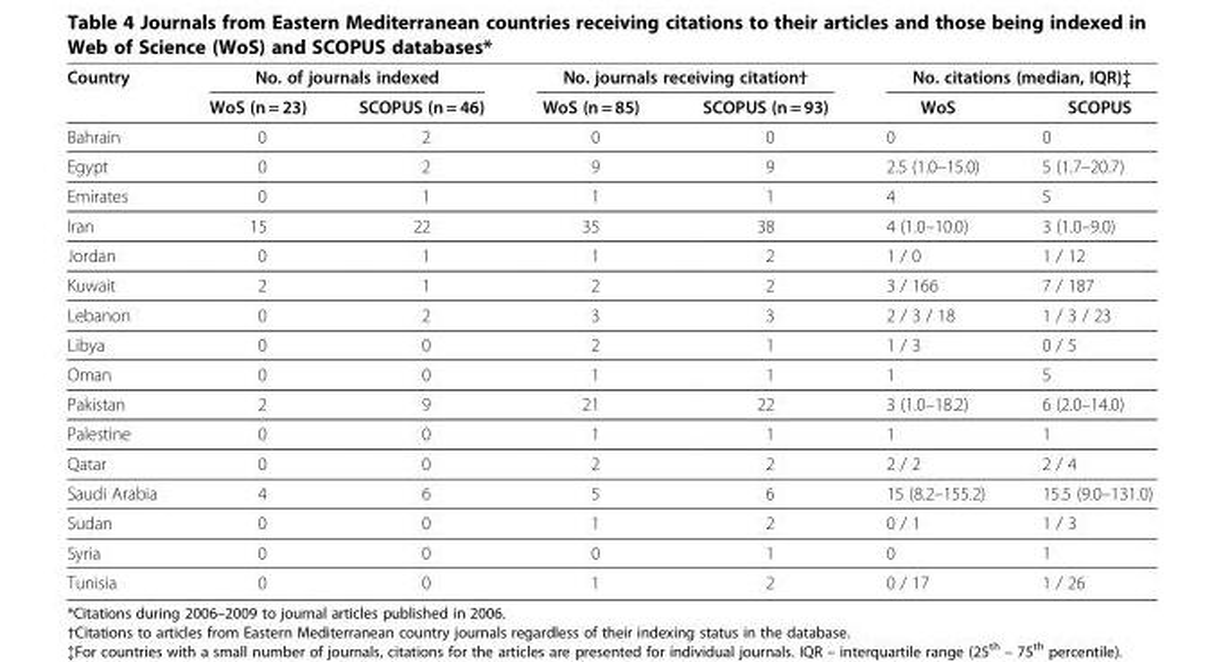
<table><thead><tr><td rowspan="2">Country</td><td colspan="2">No. of journals indexed</td><td colspan="2">No. journals receiving citation†</td><td colspan="2">No. citations (median, IQR){{</td></tr><tr><td>WoS (n = 23)</td><td>SCOPUS (n = 46)</td><td>WoS (n = 85)</td><td>SCOPUS (n = 93)</td><td>WoS</td><td>SCOPUS</td></tr></thead><tbody><tr><td>Bahrain</td><td>0</td><td>2</td><td>0</td><td>0</td><td>0</td><td>0</td></tr><tr><td>Egypt</td><td>0</td><td>2</td><td>9</td><td>9</td><td>2.5 (1.0–15.0)</td><td>5 (1.7–20.7)</td></tr><tr><td>Emirates</td><td>0</td><td>1</td><td>1</td><td>1</td><td>4</td><td>5</td></tr><tr><td>Iran</td><td>15</td><td>22</td><td>35</td><td>38</td><td>4 (1.0–10.0)</td><td>3 (1.0–9.0)</td></tr><tr><td>Jordan</td><td>0</td><td>1</td><td>1</td><td>2</td><td>1 / 0</td><td>1 / 12</td></tr><tr><td>Kuwait</td><td>2</td><td>1</td><td>2</td><td>2</td><td>3 / 166</td><td>7 / 187</td></tr><tr><td>Lebanon</td><td>0</td><td>2</td><td>3</td><td>3</td><td>2 / 3 / 18</td><td>1 / 3 / 23</td></tr><tr><td>Libya</td><td>0</td><td>0</td><td>2</td><td>1</td><td>1 / 3</td><td>0 / 5</td></tr><tr><td>Oman</td><td>0</td><td>0</td><td>1</td><td>1</td><td>1</td><td>5</td></tr><tr><td>Pakistan</td><td>2</td><td>9</td><td>21</td><td>22</td><td>3 (1.0–18.2)</td><td>6 (2.0–14.0)</td></tr><tr><td>Palestine</td><td>0</td><td>0</td><td>1</td><td>1</td><td>1</td><td>1</td></tr><tr><td>Qatar</td><td>0</td><td>0</td><td>2</td><td>2</td><td>2 / 2</td><td>2 / 4</td></tr><tr><td>Saudi Arabia</td><td>4</td><td>6</td><td>5</td><td>6</td><td>15 (8.2–155.2)</td><td>15.5 (9.0–131.0)</td></tr><tr><td>Sudan</td><td>0</td><td>0</td><td>1</td><td>2</td><td>0 / 1</td><td>1 / 3</td></tr><tr><td>Syria</td><td>0</td><td>0</td><td>0</td><td>1</td><td>0</td><td>1</td></tr><tr><td>Tunisia</td><td>0</td><td>0</td><td>1</td><td>2</td><td>0 / 17</td><td>1 / 26</td></tr></tbody></table>